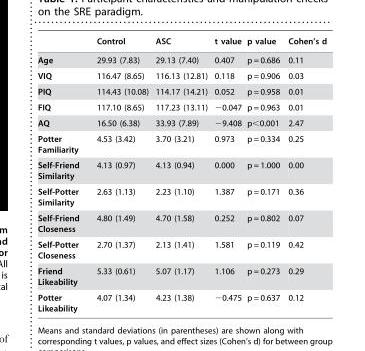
<table><thead><tr><td></td><td>Control</td><td>ASC</td><td>t value</td><td>p value</td><td>Cohen’s d</td></tr></thead><tbody><tr><td>Age</td><td>29.93 (7.83)</td><td>29.13 (7.40)</td><td>0.407</td><td>p = 0.686</td><td>0.11</td></tr><tr><td>VIQ</td><td>116.47 (8.65)</td><td>116.13 (12.81)</td><td>0.118</td><td>p = 0.906</td><td>0.03</td></tr><tr><td>PIQ</td><td>114.43 (10.08)</td><td>114.17 (14.21)</td><td>0.052</td><td>p = 0.958</td><td>0.01</td></tr><tr><td>FIQ</td><td>117.10 (8.65)</td><td>117.23 (13.11)</td><td>−0.047</td><td>p = 0.963</td><td>0.01</td></tr><tr><td>AQ</td><td>16.50 (6.38)</td><td>33.93 (7.89)</td><td>−9.408</td><td>p&lt;0.001</td><td>2.47</td></tr><tr><td>Potter Familiarity</td><td>4.53 (3.42)</td><td>3.70 (3.21)</td><td>0.973</td><td>p = 0.334</td><td>0.25</td></tr><tr><td>Self-Friend Similarity</td><td>4.13 (0.97)</td><td>4.13 (0.94)</td><td>0.000</td><td>p = 1.000</td><td>0.00</td></tr><tr><td>Self-Potter Similarity</td><td>2.63 (1.13)</td><td>2.23 (1.10)</td><td>1.387</td><td>p = 0.171</td><td>0.36</td></tr><tr><td>Self-Friend Closeness</td><td>4.80 (1.49)</td><td>4.70 (1.58)</td><td>0.252</td><td>p = 0.802</td><td>0.07</td></tr><tr><td>Self-Potter Closeness</td><td>2.70 (1.37)</td><td>2.13 (1.41)</td><td>1.581</td><td>p = 0.119</td><td>0.42</td></tr><tr><td>Friend Likeability</td><td>5.33 (0.61)</td><td>5.07 (1.17)</td><td>1.106</td><td>p = 0.273</td><td>0.29</td></tr><tr><td>Potter Likeability</td><td>4.07 (1.34)</td><td>4.23 (1.38)</td><td>−0.475</td><td>p = 0.637</td><td>0.12</td></tr></tbody></table>